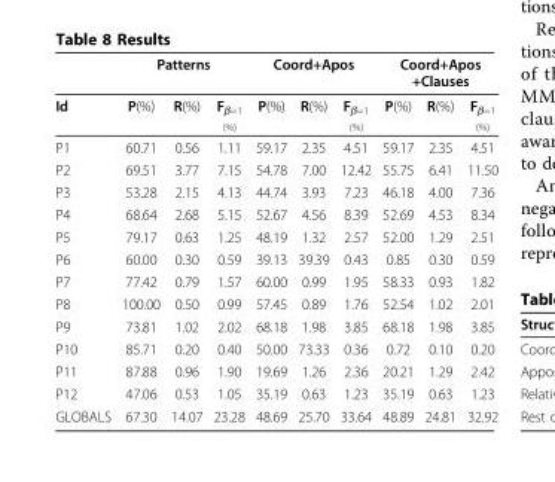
<table><thead><tr><td rowspan="2">Id</td><td colspan="3">Patterns</td><td colspan="3">Coord+Apos</td><td colspan="3">Coord+Apos +Clauses</td></tr><tr><td>P(%)</td><td>R(%)</td><td>F<sub>β=1 (%)</sub></td><td>P(%)</td><td>R(%)</td><td>F<sub>β=1 (%)</sub></td><td>P(%)</td><td>R(%)</td><td>F<sub>β=1 (%)</sub></td></tr></thead><tbody><tr><td>P1</td><td>60.71</td><td>0.56</td><td>1.11</td><td>59.17</td><td>2.35</td><td>4.51</td><td>59.17</td><td>2.35</td><td>4.51</td></tr><tr><td>P2</td><td>69.51</td><td>3.77</td><td>7.15</td><td>54.78</td><td>7.00</td><td>12.42</td><td>55.75</td><td>6.41</td><td>11.50</td></tr><tr><td>P3</td><td>53.28</td><td>2.15</td><td>4.13</td><td>44.74</td><td>3.93</td><td>7.23</td><td>46.18</td><td>4.00</td><td>7.36</td></tr><tr><td>P4</td><td>68.64</td><td>2.68</td><td>5.15</td><td>52.67</td><td>4.56</td><td>8.39</td><td>52.69</td><td>4.53</td><td>8.34</td></tr><tr><td>P5</td><td>79.17</td><td>0.63</td><td>1.25</td><td>48.19</td><td>1.32</td><td>2.57</td><td>52.00</td><td>1.29</td><td>2.51</td></tr><tr><td>P6</td><td>60.00</td><td>0.30</td><td>0.59</td><td>39.13</td><td>39.39</td><td>0.43</td><td>0.85</td><td>0.30</td><td>0.59</td></tr><tr><td>P7</td><td>77.42</td><td>0.79</td><td>1.57</td><td>60.00</td><td>0.99</td><td>1.95</td><td>58.33</td><td>0.93</td><td>1.82</td></tr><tr><td>P8</td><td>100.00</td><td>0.50</td><td>0.99</td><td>57.45</td><td>0.89</td><td>1.76</td><td>52.54</td><td>1.02</td><td>2.01</td></tr><tr><td>P9</td><td>73.81</td><td>1.02</td><td>2.02</td><td>68.18</td><td>1.98</td><td>3.85</td><td>68.18</td><td>1.98</td><td>3.85</td></tr><tr><td>P10</td><td>85.71</td><td>0.20</td><td>0.40</td><td>50.00</td><td>73.33</td><td>0.36</td><td>0.72</td><td>0.10</td><td>0.20</td></tr><tr><td>P11</td><td>87.88</td><td>0.96</td><td>1.90</td><td>19.69</td><td>1.26</td><td>2.36</td><td>20.21</td><td>1.29</td><td>2.42</td></tr><tr><td>P12</td><td>47.06</td><td>0.53</td><td>1.05</td><td>35.19</td><td>0.63</td><td>1.23</td><td>35.19</td><td>0.63</td><td>1.23</td></tr><tr><td>GLOBALS</td><td>67.30</td><td>14.07</td><td>23.28</td><td>48.69</td><td>25.70</td><td>33.64</td><td>48.89</td><td>24.81</td><td>32.92</td></tr></tbody></table>